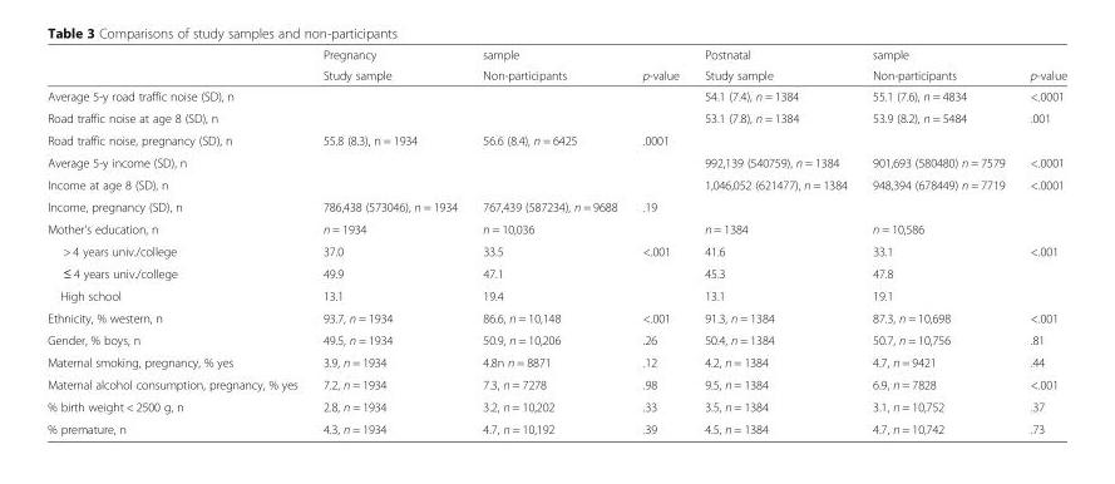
<table><thead><tr><td rowspan="2"></td><td rowspan="2">Pregnancy Study sample</td><td rowspan="2">sample Non-participants</td><td rowspan="2">p-value</td><td rowspan="2">Postnatal Study sample</td><td rowspan="2">sample Non-participants</td><td rowspan="2">p-value</td></tr><tr></tr></thead><tbody><tr><td>Average 5-y road traffic noise (SD), n</td><td></td><td></td><td></td><td>54.1 (7.4), n = 1384</td><td>55.1 (7.6), n = 4834</td><td>&lt;.0001</td></tr><tr><td>Road traffic noise at age 8 (SD), n</td><td></td><td></td><td></td><td>53.1 (7.8), n = 1384</td><td>53.9 (8.2), n = 5484</td><td>.001</td></tr><tr><td>Road traffic noise, pregnancy (SD), n</td><td>55.8 (8.3), n = 1934</td><td>56.6 (8.4), n = 6425</td><td>.0001</td><td></td><td></td><td></td></tr><tr><td>Average 5-y income (SD), n</td><td></td><td></td><td></td><td>992,139 (540759), n = 1384</td><td>901,693 (580480) n = 7579</td><td>&lt;.0001</td></tr><tr><td>Income at age 8 (SD), n</td><td></td><td></td><td></td><td>1,046,052 (621477), n = 1384</td><td>948,394 (678449) n = 7719</td><td>&lt;.0001</td></tr><tr><td>Income, pregnancy (SD), n</td><td>786,438 (573046), n = 1934</td><td>767,439 (587234), n = 9688</td><td>.19</td><td></td><td></td><td></td></tr><tr><td>Mother’s education, n</td><td>n = 1934</td><td>n = 10,036</td><td></td><td>n = 1384</td><td>n = 10,586</td><td></td></tr><tr><td>&gt; 4 years univ./college</td><td>37.0</td><td>33.5</td><td>&lt;.001</td><td>41.6</td><td>33.1</td><td>&lt;.001</td></tr><tr><td>≤ 4 years univ./college</td><td>49.9</td><td>47.1</td><td></td><td>45.3</td><td>47.8</td><td></td></tr><tr><td>High school</td><td>13.1</td><td>19.4</td><td></td><td>13.1</td><td>19.1</td><td></td></tr><tr><td>Ethnicity, % western, n</td><td>93.7, n = 1934</td><td>86.6, n = 10,148</td><td>&lt;.001</td><td>91.3, n = 1384</td><td>87.3, n = 10,698</td><td>&lt;.001</td></tr><tr><td>Gender, % boys, n</td><td>49.5, n = 1934</td><td>50.9, n = 10,206</td><td>.26</td><td>50.4, n = 1384</td><td>50.7, n = 10,756</td><td>.81</td></tr><tr><td>Maternal smoking, pregnancy, % yes</td><td>3.9, n = 1934</td><td>4.8n n = 8871</td><td>.12</td><td>4.2, n = 1384</td><td>4.7, n = 9421</td><td>.44</td></tr><tr><td>Maternal alcohol consumption, pregnancy, % yes</td><td>7.2, n = 1934</td><td>7.3, n = 7278</td><td>.98</td><td>9.5, n = 1384</td><td>6.9, n = 7828</td><td>&lt;.001</td></tr><tr><td>% birth weight &lt; 2500 g, n</td><td>2.8, n = 1934</td><td>3.2, n = 10,202</td><td>.33</td><td>3.5, n = 1384</td><td>3.1, n = 10,752</td><td>.37</td></tr><tr><td>% premature, n</td><td>4.3, n = 1934</td><td>4.7, n = 10,192</td><td>.39</td><td>4.5, n = 1384</td><td>4.7, n = 10,742</td><td>.73</td></tr></tbody></table>